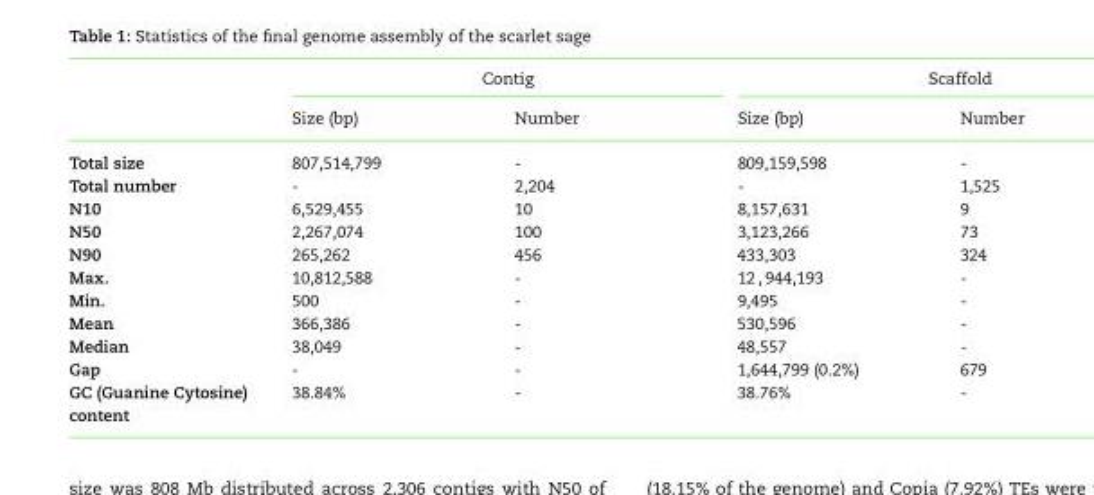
<table><thead><tr><td rowspan="2"></td><td colspan="2">Contig</td><td colspan="2">Scaffold</td></tr><tr><td>Size (bp)</td><td>Number</td><td>Size (bp)</td><td>Number</td></tr></thead><tbody><tr><td>Total size</td><td>807,514,799</td><td>-</td><td>809,159,598</td><td>-</td></tr><tr><td>Total number</td><td>-</td><td>2,204</td><td>-</td><td>1,525</td></tr><tr><td>N10</td><td>6,529,455</td><td>10</td><td>8,157,631</td><td>9</td></tr><tr><td>N50</td><td>2,267,074</td><td>100</td><td>3,123,266</td><td>73</td></tr><tr><td>N90</td><td>265,262</td><td>456</td><td>433,303</td><td>324</td></tr><tr><td>Max.</td><td>10,812,588</td><td>-</td><td>12 , 944,193</td><td>-</td></tr><tr><td>Min.</td><td>500</td><td>-</td><td>9,495</td><td>-</td></tr><tr><td>Mean</td><td>366,386</td><td>-</td><td>530,596</td><td>-</td></tr><tr><td>Median</td><td>38,049</td><td>-</td><td>48,557</td><td>-</td></tr><tr><td>Gap</td><td>-</td><td>-</td><td>1,644,799 (0.2%)</td><td>679</td></tr><tr><td>GC (Guanine Cytosine) content</td><td>38.84%</td><td>-</td><td>38.76%</td><td>-</td></tr></tbody></table>